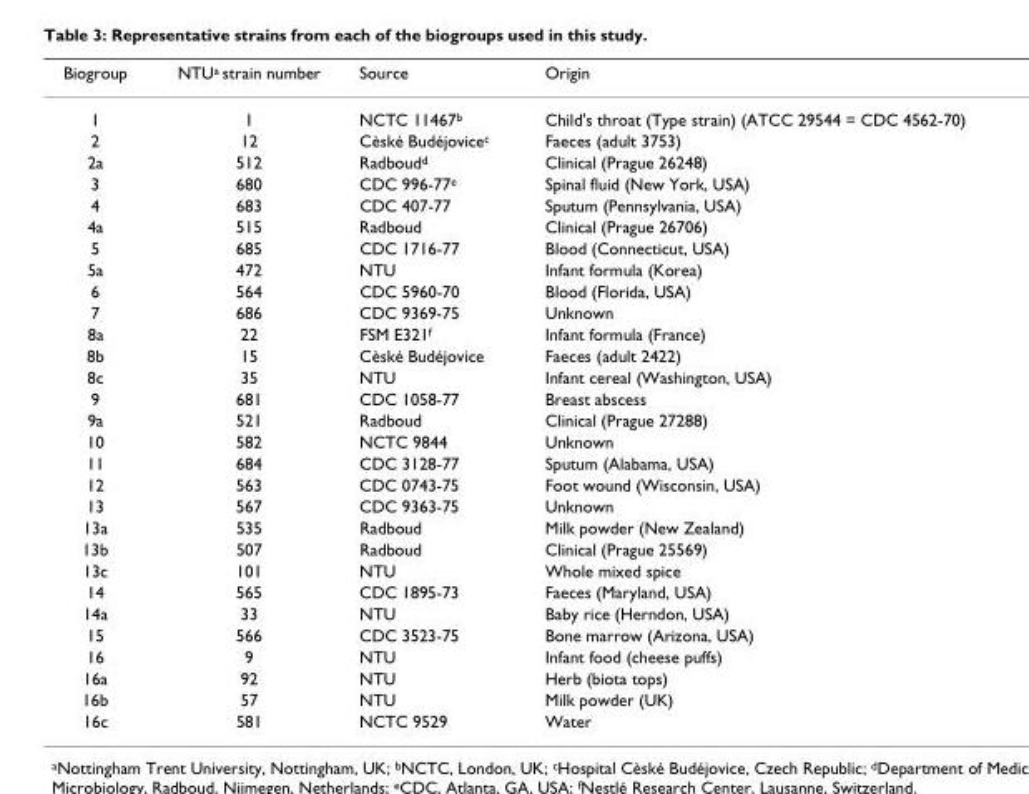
<table><thead><tr><td>Biogroup</td><td>NTUa strain number</td><td>Source</td><td>Origin</td></tr></thead><tbody><tr><td>1</td><td>1</td><td>NCTC 11467b</td><td>Child&#x27;s throat (Type strain) (ATCC 29544 = CDC 4562-70)</td></tr><tr><td>2</td><td>12</td><td>Cèské Budéjovicec</td><td>Faeces (adult 3753)</td></tr><tr><td>2a</td><td>512</td><td>Radboudd</td><td>Clinical (Prague 26248)</td></tr><tr><td>3</td><td>680</td><td>CDC 996-77e</td><td>Spinal fluid (New York, USA)</td></tr><tr><td>4</td><td>683</td><td>CDC 407-77</td><td>Sputum (Pennsylvania, USA)</td></tr><tr><td>4a</td><td>515</td><td>Radboud</td><td>Clinical (Prague 26706)</td></tr><tr><td>5</td><td>685</td><td>CDC 1716-77</td><td>Blood (Connecticut, USA)</td></tr><tr><td>5a</td><td>472</td><td>NTU</td><td>Infant formula (Korea)</td></tr><tr><td>6</td><td>564</td><td>CDC 5960-70</td><td>Blood (Florida, USA)</td></tr><tr><td>7</td><td>686</td><td>CDC 9369-75</td><td>Unknown</td></tr><tr><td>8a</td><td>22</td><td>FSM E321f</td><td>Infant formula (France)</td></tr><tr><td>8b</td><td>15</td><td>Cèské Budéjovice</td><td>Faeces (adult 2422)</td></tr><tr><td>8c</td><td>35</td><td>NTU</td><td>Infant cereal (Washington, USA)</td></tr><tr><td>9</td><td>681</td><td>CDC 1058-77</td><td>Breast abscess</td></tr><tr><td>9a</td><td>521</td><td>Radboud</td><td>Clinical (Prague 27288)</td></tr><tr><td>10</td><td>582</td><td>NCTC 9844</td><td>Unknown</td></tr><tr><td>11</td><td>684</td><td>CDC 3128-77</td><td>Sputum (Alabama, USA)</td></tr><tr><td>12</td><td>563</td><td>CDC 0743-75</td><td>Foot wound (Wisconsin, USA)</td></tr><tr><td>13</td><td>567</td><td>CDC 9363-75</td><td>Unknown</td></tr><tr><td>13a</td><td>535</td><td>Radboud</td><td>Milk powder (New Zealand)</td></tr><tr><td>13b</td><td>507</td><td>Radboud</td><td>Clinical (Prague 25569)</td></tr><tr><td>13c</td><td>101</td><td>NTU</td><td>Whole mixed spice</td></tr><tr><td>14</td><td>565</td><td>CDC 1895-73</td><td>Faeces (Maryland, USA)</td></tr><tr><td>14a</td><td>33</td><td>NTU</td><td>Baby rice (Herndon, USA)</td></tr><tr><td>15</td><td>566</td><td>CDC 3523-75</td><td>Bone marrow (Arizona, USA)</td></tr><tr><td>16</td><td>9</td><td>NTU</td><td>Infant food (cheese puffs)</td></tr><tr><td>16a</td><td>92</td><td>NTU</td><td>Herb (biota tops)</td></tr><tr><td>16b</td><td>57</td><td>NTU</td><td>Milk powder (UK)</td></tr><tr><td>16c</td><td>581</td><td>NCTC 9529</td><td>Water</td></tr></tbody></table>